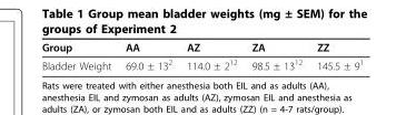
<table><thead><tr><td>Group</td><td>AA</td><td>AZ</td><td>ZA</td><td>ZZ</td></tr></thead><tbody><tr><td>Bladder Weight</td><td>69.0 ± 13<sup>2</sup></td><td>114.0 ± 2<sup>12</sup></td><td>98.5 ± 13<sup>12</sup></td><td>145.5 ± 9<sup>1</sup></td></tr></tbody></table>